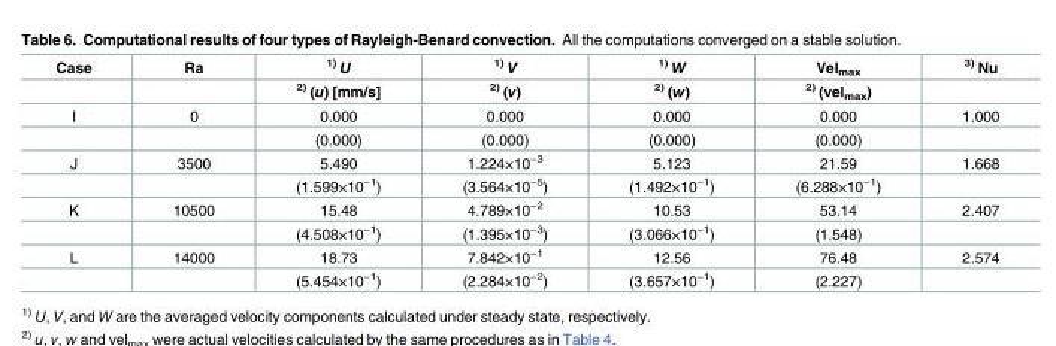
<table><thead><tr><td rowspan="2">Case</td><td rowspan="2">Ra</td><td rowspan="2"><sup>1)</sup> U <sup>2)</sup> (u) [mm/s]</td><td rowspan="2"><sup>1)</sup> V <sup>2)</sup> (v)</td><td rowspan="2"><sup>1)</sup> W <sup>2)</sup> (w)</td><td rowspan="2">Vel<sub>max</sub> <sup>2)</sup> (vel<sub>max</sub>)</td><td rowspan="2"><sup>3)</sup> Nu</td></tr><tr></tr></thead><tbody><tr><td rowspan="2">I</td><td>0</td><td>0.000</td><td>0.000</td><td>0.000</td><td>0.000</td><td>1.000</td></tr><tr><td></td><td>(0.000)</td><td>(0.000)</td><td>(0.000)</td><td>(0.000)</td><td></td></tr><tr><td rowspan="2">J</td><td>3500</td><td>5.490</td><td>1.224×10<sup>−3</sup></td><td>5.123</td><td>21.59</td><td>1.668</td></tr><tr><td></td><td>(1.599×10<sup>−1</sup>)</td><td>(3.564×10<sup>−5</sup>)</td><td>(1.492×10<sup>−1</sup>)</td><td>(6.288×10<sup>−1</sup>)</td><td></td></tr><tr><td rowspan="2">K</td><td>10500</td><td>15.48</td><td>4.789×10<sup>−2</sup></td><td>10.53</td><td>53.14</td><td>2.407</td></tr><tr><td></td><td>(4.508×10<sup>−1</sup>)</td><td>(1.395×10<sup>−3</sup>)</td><td>(3.066×10<sup>−1</sup>)</td><td>(1.548)</td><td></td></tr><tr><td rowspan="2">L</td><td>14000</td><td>18.73</td><td>7.842×10<sup>−1</sup></td><td>12.56</td><td>76.48</td><td>2.574</td></tr><tr><td></td><td>(5.454×10<sup>−1</sup>)</td><td>(2.284×10<sup>−2</sup>)</td><td>(3.657×10<sup>−1</sup>)</td><td>(2.227)</td><td></td></tr></tbody></table>